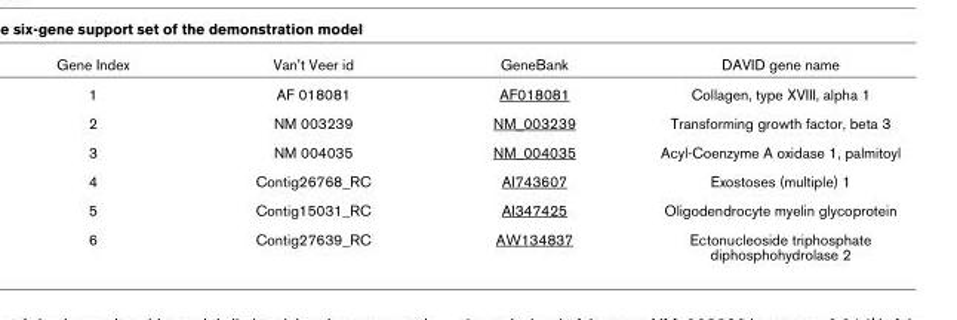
<table><thead><tr><td>Gene Index</td><td>Van&#x27;t Veer id</td><td>GeneBank</td><td>DAVID gene name</td></tr></thead><tbody><tr><td>1</td><td>AF 018081</td><td>AF018081</td><td>Collagen, type XVIII, alpha 1</td></tr><tr><td>2</td><td>NM 003239</td><td>NM_003239</td><td>Transforming growth factor, beta 3</td></tr><tr><td>3</td><td>NM 004035</td><td>NM_004035</td><td>Acyl-Coenzyme A oxidase 1, palmitoyl</td></tr><tr><td>4</td><td>Contig26768_RC</td><td>AI743607</td><td>Exostoses (multiple) 1</td></tr><tr><td>5</td><td>Contig15031_RC</td><td>AI347425</td><td>Oligodendrocyte myelin glycoprotein</td></tr><tr><td>6</td><td>Contig27639_RC</td><td>AW134837</td><td>Ectonucleoside triphosphate diphosphohydrolase 2</td></tr></tbody></table>